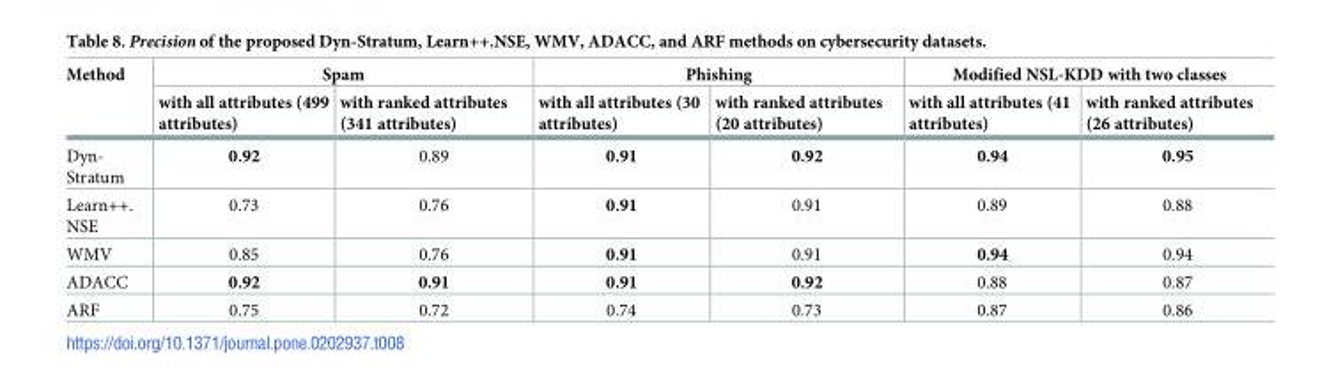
<table><thead><tr><td rowspan="2">Method</td><td colspan="2">Spam</td><td colspan="2">Phishing</td><td colspan="2">Modified NSL-KDD with two classes</td></tr><tr><td>with all attributes (499 attributes)</td><td>with ranked attributes (341 attributes)</td><td>with all attributes (30 attributes)</td><td>with ranked attributes (20 attributes)</td><td>with all attributes (41 attributes)</td><td>with ranked attributes (26 attributes)</td></tr></thead><tbody><tr><td>Dyn- Stratum</td><td>0.92</td><td>0.89</td><td>0.91</td><td>0.92</td><td>0.94</td><td>0.95</td></tr><tr><td>Learn++. NSE</td><td>0.73</td><td>0.76</td><td>0.91</td><td>0.91</td><td>0.89</td><td>0.88</td></tr><tr><td>WMV</td><td>0.85</td><td>0.76</td><td>0.91</td><td>0.91</td><td>0.94</td><td>0.94</td></tr><tr><td>ADACC</td><td>0.92</td><td>0.91</td><td>0.91</td><td>0.92</td><td>0.88</td><td>0.87</td></tr><tr><td>ARF</td><td>0.75</td><td>0.72</td><td>0.74</td><td>0.73</td><td>0.87</td><td>0.86</td></tr></tbody></table>